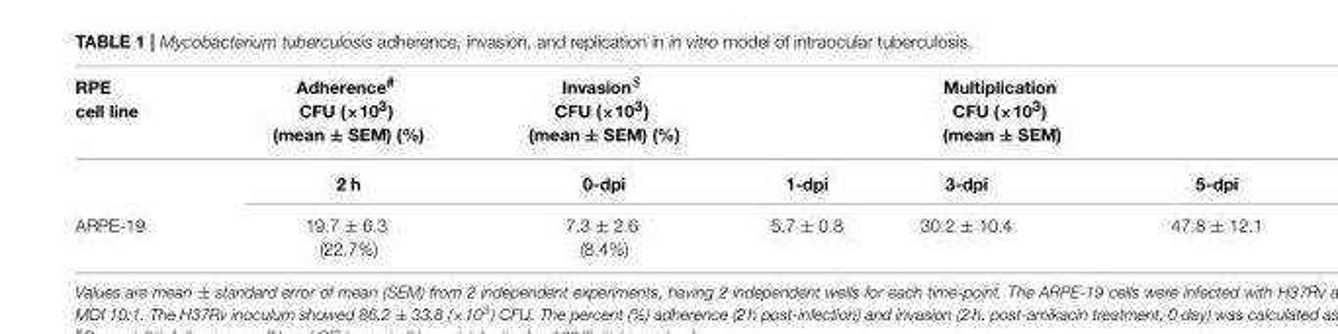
<table><thead><tr><td rowspan="2">RPE cell line</td><td rowspan="2">Adherence<sup>#</sup> CFU (×10<sup>3</sup>) (mean ± SEM) (%) 2 h</td><td rowspan="2">Invasion<sup>$</sup> CFU (×10<sup>3</sup>) (mean ± SEM) (%) 0-dpi</td><td colspan="3">Multiplication CFU (×10<sup>3</sup>) (mean ± SEM)</td></tr><tr><td>1-dpi</td><td>3-dpi</td><td>5-dpi</td></tr></thead><tbody><tr><td>ARPE-19</td><td>19.7 ± 6.3 (22.7%)</td><td>7.3 ± 2.6 (8.4%)</td><td>5.7 ± 0.8</td><td>30.2 ± 10.4</td><td>47.8 ± 12.1</td></tr></tbody></table>